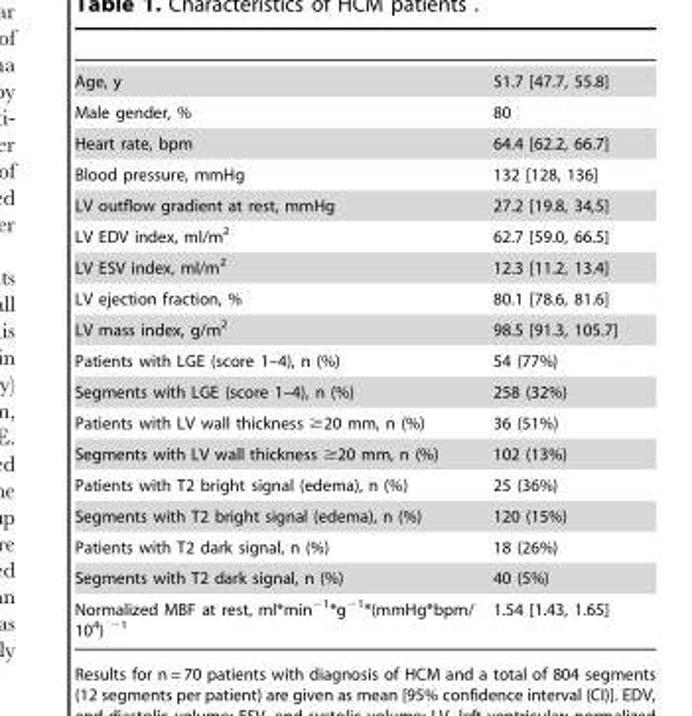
<table><tbody><tr><td>Age, y</td><td>51.7 [47.7, 55.8]</td></tr><tr><td>Male gender, %</td><td>80</td></tr><tr><td>Heart rate, bpm</td><td>64.4 [62.2, 66.7]</td></tr><tr><td>Blood pressure, mmHg</td><td>132 [128, 136]</td></tr><tr><td>LV outflow gradient at rest, mmHg</td><td>27.2 [19.8, 34,5]</td></tr><tr><td>LV EDV index, ml/m<sup>2</sup></td><td>62.7 [59.0, 66.5]</td></tr><tr><td>LV ESV index, ml/m<sup>2</sup></td><td>12.3 [11.2, 13.4]</td></tr><tr><td>LV ejection fraction, %</td><td>80.1 [78.6, 81.6]</td></tr><tr><td>LV mass index, g/m<sup>2</sup></td><td>98.5 [91.3, 105.7]</td></tr><tr><td>Patients with LGE (score 1–4), n (%)</td><td>54 (77%)</td></tr><tr><td>Segments with LGE (score 1–4), n (%)</td><td>258 (32%)</td></tr><tr><td>Patients with LV wall thickness ≥20 mm, n (%)</td><td>36 (51%)</td></tr><tr><td>Segments with LV wall thickness ≥20 mm, n (%)</td><td>102 (13%)</td></tr><tr><td>Patients with T2 bright signal (edema), n (%)</td><td>25 (36%)</td></tr><tr><td>Segments with T2 bright signal (edema), n (%)</td><td>120 (15%)</td></tr><tr><td>Patients with T2 dark signal, n (%)</td><td>18 (26%)</td></tr><tr><td>Segments with T2 dark signal, n (%)</td><td>40 (5%)</td></tr><tr><td>Normalized MBF at rest, ml*min<sup>−1</sup>*g<sup>−1</sup>*(mmHg*bpm/ 10<sup>4</sup>) <sup>−1</sup></td><td>1.54 [1.43, 1.65]</td></tr></tbody></table>